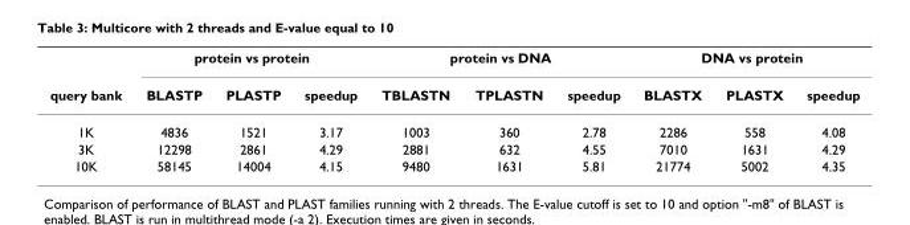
<table><thead><tr><td rowspan="2">query bank</td><td colspan="3">protein vs protein</td><td colspan="3">protein vs DNA</td><td colspan="3">DNA vs protein</td></tr><tr><td>BLASTP</td><td>PLASTP</td><td>speedup</td><td>TBLASTN</td><td>TPLASTN</td><td>speedup</td><td>BLASTX</td><td>PLASTX</td><td>speedup</td></tr></thead><tbody><tr><td>1K</td><td>4836</td><td>1521</td><td>3.17</td><td>1003</td><td>360</td><td>2.78</td><td>2286</td><td>558</td><td>4.08</td></tr><tr><td>3K</td><td>12298</td><td>2861</td><td>4.29</td><td>2881</td><td>632</td><td>4.55</td><td>7010</td><td>1631</td><td>4.29</td></tr><tr><td>10K</td><td>58145</td><td>14004</td><td>4.15</td><td>9480</td><td>1631</td><td>5.81</td><td>21774</td><td>5002</td><td>4.35</td></tr></tbody></table>